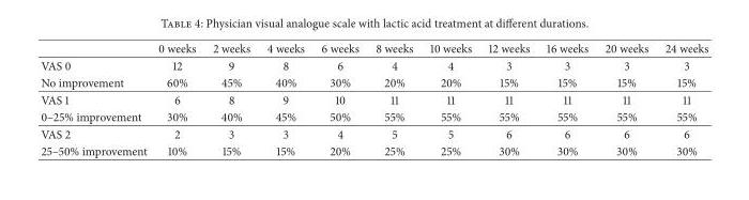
<table><thead><tr><td></td><td>0 weeks</td><td>2 weeks</td><td>4 weeks</td><td>6 weeks</td><td>8 weeks</td><td>10 weeks</td><td>12 weeks</td><td>16 weeks</td><td>20 weeks</td><td>24 weeks</td></tr></thead><tbody><tr><td>VAS 0</td><td>12</td><td>9</td><td>8</td><td>6</td><td>4</td><td>4</td><td>3</td><td>3</td><td>3</td><td>3</td></tr><tr><td>No improvement</td><td>60%</td><td>45%</td><td>40%</td><td>30%</td><td>20%</td><td>20%</td><td>15%</td><td>15%</td><td>15%</td><td>15%</td></tr><tr><td>VAS 1</td><td>6</td><td>8</td><td>9</td><td>10</td><td>11</td><td>11</td><td>11</td><td>11</td><td>11</td><td>11</td></tr><tr><td>0–25% improvement</td><td>30%</td><td>40%</td><td>45%</td><td>50%</td><td>55%</td><td>55%</td><td>55%</td><td>55%</td><td>55%</td><td>55%</td></tr><tr><td>VAS 2</td><td>2</td><td>3</td><td>3</td><td>4</td><td>5</td><td>5</td><td>6</td><td>6</td><td>6</td><td>6</td></tr><tr><td>25–50% improvement</td><td>10%</td><td>15%</td><td>15%</td><td>20%</td><td>25%</td><td>25%</td><td>30%</td><td>30%</td><td>30%</td><td>30%</td></tr></tbody></table>